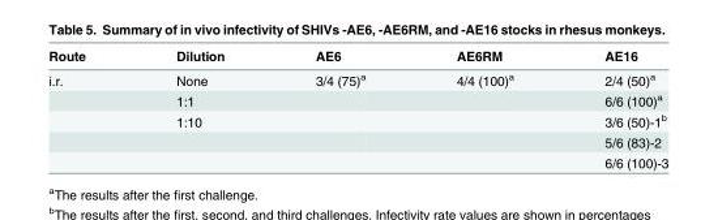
<table><thead><tr><td>Route</td><td>Dilution</td><td>AE6</td><td>AE6RM</td><td>AE16</td></tr></thead><tbody><tr><td rowspan="5">i.r.</td><td>None</td><td>3/4 (75)<sup>a</sup></td><td>4/4 (100)<sup>a</sup></td><td>2/4 (50)<sup>a</sup></td></tr><tr><td>1:1</td><td></td><td></td><td>6/6 (100)<sup>a</sup></td></tr><tr><td>1:10</td><td></td><td></td><td>3/6 (50)-1<sup>b</sup></td></tr><tr><td></td><td></td><td></td><td>5/6 (83)-2</td></tr><tr><td></td><td></td><td></td><td>6/6 (100)-3</td></tr></tbody></table>